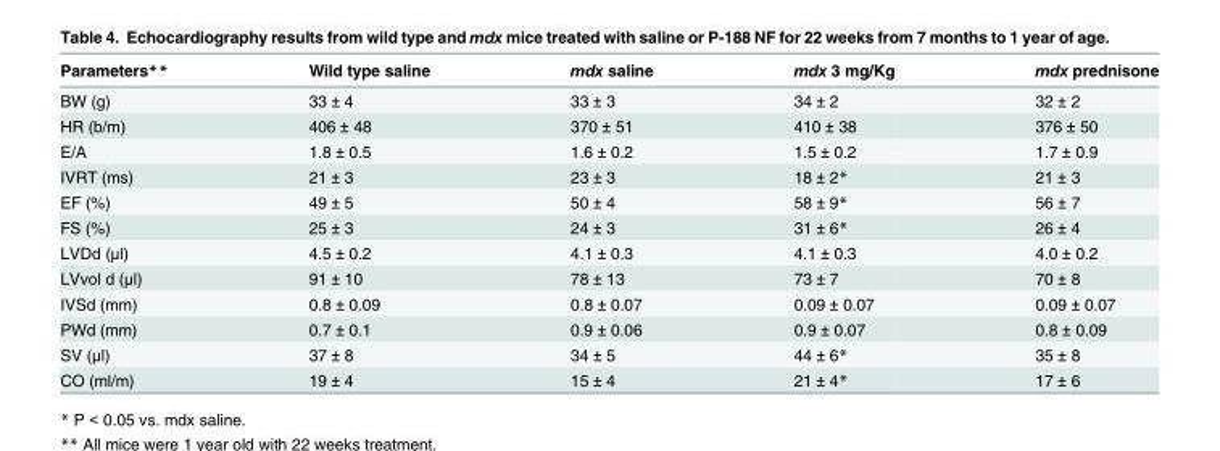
<table><thead><tr><td>Parameters**</td><td>Wild type saline</td><td>mdx saline</td><td>mdx 3 mg/Kg</td><td>mdx prednisone</td></tr></thead><tbody><tr><td>BW (g)</td><td>33 ± 4</td><td>33 ± 3</td><td>34 ± 2</td><td>32 ± 2</td></tr><tr><td>HR (b/m)</td><td>406 ± 48</td><td>370 ± 51</td><td>410 ± 38</td><td>376 ± 50</td></tr><tr><td>E/A</td><td>1.8 ± 0.5</td><td>1.6 ± 0.2</td><td>1.5 ± 0.2</td><td>1.7 ± 0.9</td></tr><tr><td>IVRT (ms)</td><td>21 ± 3</td><td>23 ± 3</td><td>18 ± 2*</td><td>21 ± 3</td></tr><tr><td>EF (%)</td><td>49 ± 5</td><td>50 ± 4</td><td>58 ± 9*</td><td>56 ± 7</td></tr><tr><td>FS (%)</td><td>25 ± 3</td><td>24 ± 3</td><td>31 ± 6*</td><td>26 ± 4</td></tr><tr><td>LVDd (μl)</td><td>4.5 ± 0.2</td><td>4.1 ± 0.3</td><td>4.1 ± 0.3</td><td>4.0 ± 0.2</td></tr><tr><td>LVvol d (μl)</td><td>91 ± 10</td><td>78 ± 13</td><td>73 ± 7</td><td>70 ± 8</td></tr><tr><td>IVSd (mm)</td><td>0.8 ± 0.09</td><td>0.8 ± 0.07</td><td>0.09 ± 0.07</td><td>0.09 ± 0.07</td></tr><tr><td>PWd (mm)</td><td>0.7 ± 0.1</td><td>0.9 ± 0.06</td><td>0.9 ± 0.07</td><td>0.8 ± 0.09</td></tr><tr><td>SV (μl)</td><td>37 ± 8</td><td>34 ± 5</td><td>44 ± 6*</td><td>35 ± 8</td></tr><tr><td>CO (ml/m)</td><td>19 ± 4</td><td>15 ± 4</td><td>21 ± 4*</td><td>17 ± 6</td></tr></tbody></table>